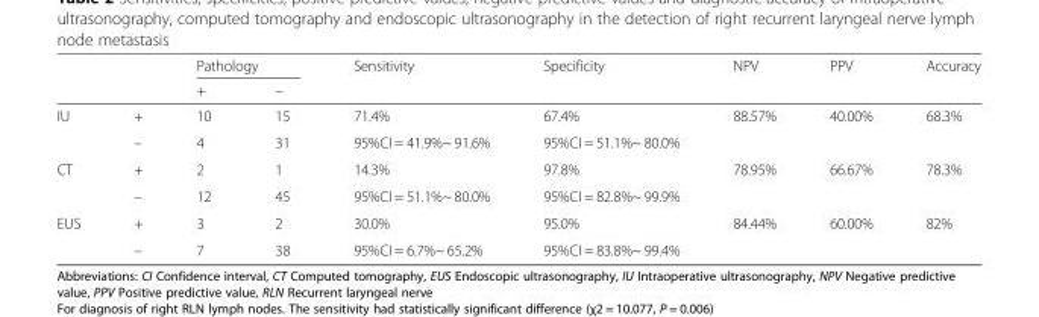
<table><thead><tr><td rowspan="2"></td><td rowspan="2"></td><td colspan="2">Pathology</td><td rowspan="2">Sensitivity</td><td rowspan="2">Specificity</td><td rowspan="2">NPV</td><td rowspan="2">PPV</td><td rowspan="2">Accuracy</td></tr><tr><td>+</td><td>–</td></tr></thead><tbody><tr><td rowspan="2">IU</td><td>+</td><td>10</td><td>15</td><td>71.4%</td><td>67.4%</td><td>88.57%</td><td>40.00%</td><td>68.3%</td></tr><tr><td>–</td><td>4</td><td>31</td><td>95%CI = 41.9%~ 91.6%</td><td>95%CI = 51.1%~ 80.0%</td><td colspan="3"></td></tr><tr><td rowspan="2">CT</td><td>+</td><td>2</td><td>1</td><td>14.3%</td><td>97.8%</td><td>78.95%</td><td>66.67%</td><td>78.3%</td></tr><tr><td>–</td><td>12</td><td>45</td><td>95%CI = 51.1%~ 80.0%</td><td>95%CI = 82.8%~ 99.9%</td><td colspan="3"></td></tr><tr><td rowspan="2">EUS</td><td>+</td><td>3</td><td>2</td><td>30.0%</td><td>95.0%</td><td>84.44%</td><td>60.00%</td><td>82%</td></tr><tr><td>–</td><td>7</td><td>38</td><td>95%CI = 6.7%~ 65.2%</td><td>95%CI = 83.8%~ 99.4%</td><td colspan="3"></td></tr></tbody></table>